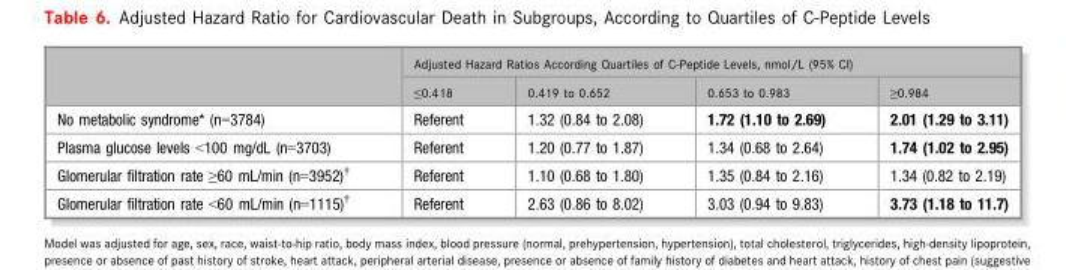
<table><thead><tr><td rowspan="2"></td><td colspan="4">Adjusted Hazard Ratios According Quartiles of C-Peptide Levels, nmol/L (95% CI)</td></tr><tr><td>≤0.418</td><td>0.419 to 0.652</td><td>0.653 to 0.983</td><td>≥0.984</td></tr></thead><tbody><tr><td>No metabolic syndrome* (n=3784)</td><td>Referent</td><td>1.32 (0.84 to 2.08)</td><td>1.72 (1.10 to 2.69)</td><td>2.01 (1.29 to 3.11)</td></tr><tr><td>Plasma glucose levels &lt;100 mg/dL (n=3703)</td><td>Referent</td><td>1.20 (0.77 to 1.87)</td><td>1.34 (0.68 to 2.64)</td><td>1.74 (1.02 to 2.95)</td></tr><tr><td>Glomerular filtration rate ≥60 mL/min (n=3952)†</td><td>Referent</td><td>1.10 (0.68 to 1.80)</td><td>1.35 (0.84 to 2.16)</td><td>1.34 (0.82 to 2.19)</td></tr><tr><td>Glomerular filtration rate &lt;60 mL/min (n=1115)†</td><td>Referent</td><td>2.63 (0.86 to 8.02)</td><td>3.03 (0.94 to 9.83)</td><td>3.73 (1.18 to 11.7)</td></tr></tbody></table>